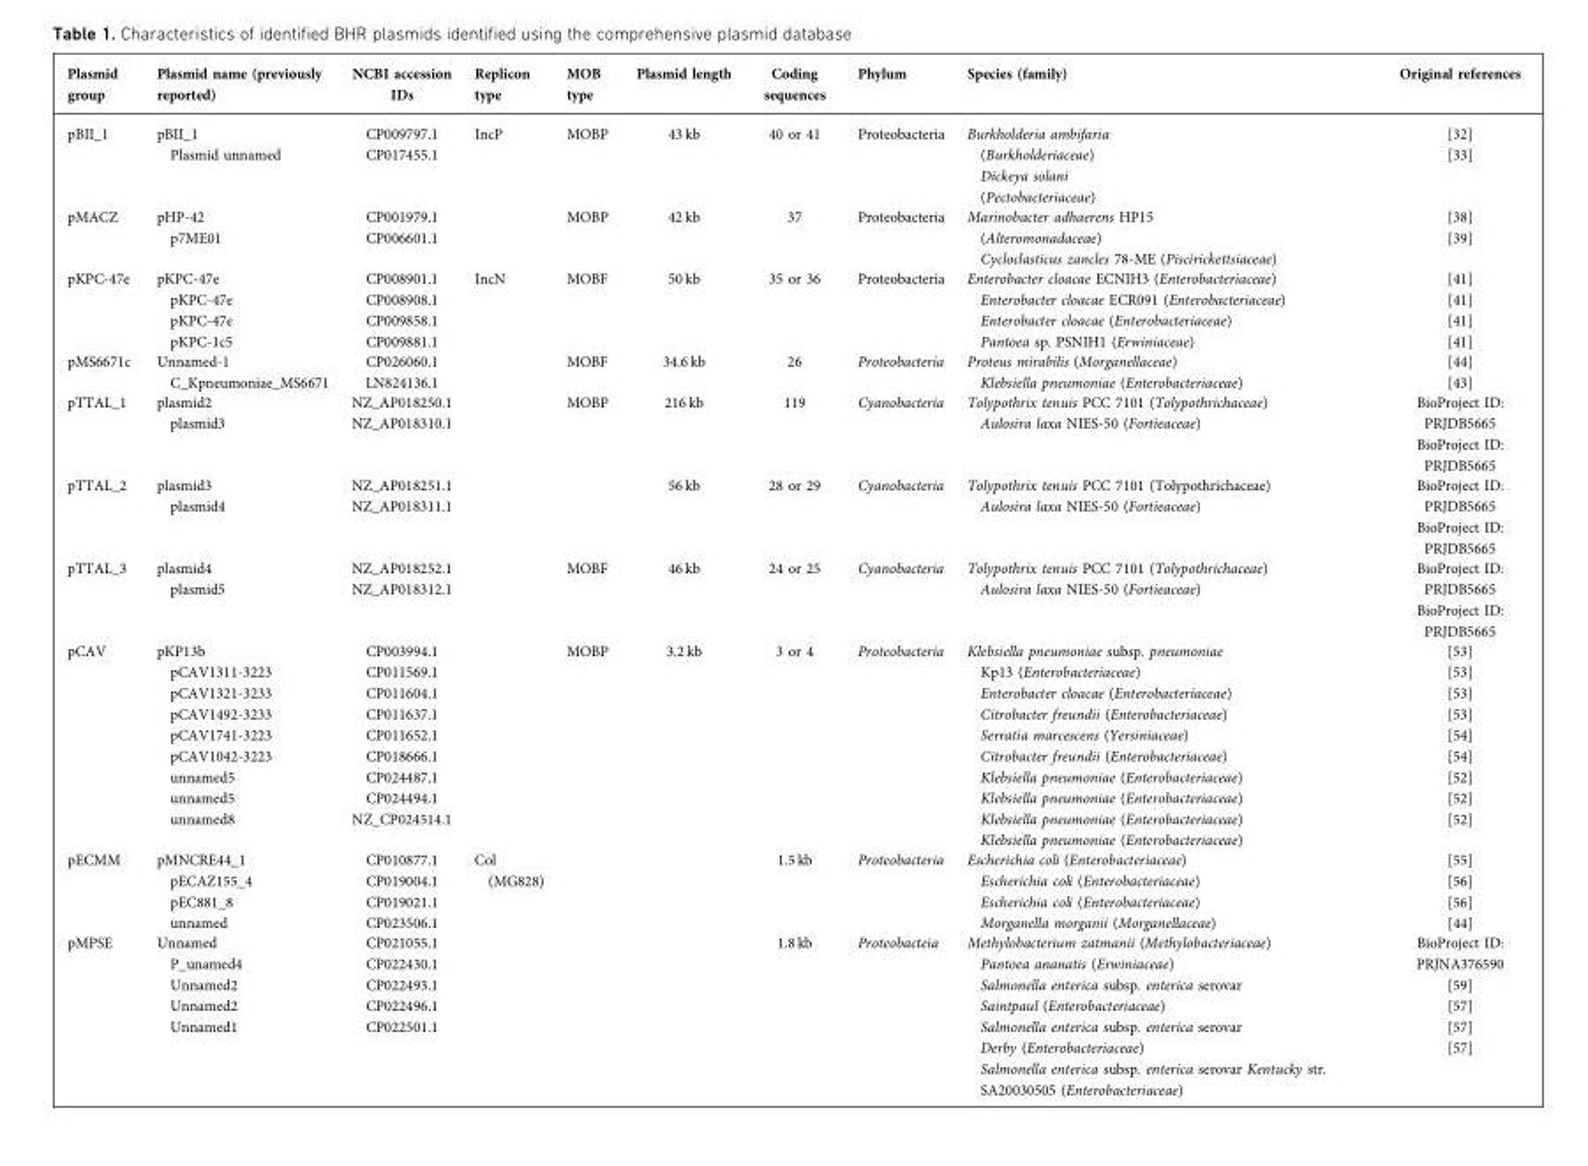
<table><thead><tr><td>Plasmid group</td><td>Plasmid name (previously reported)</td><td>NCBI accession IDs</td><td>Replicon type</td><td>MOB type</td><td>Plasmid length</td><td>Coding sequences</td><td>Phylum</td><td>Species (family)</td><td>Original references</td></tr></thead><tbody><tr><td>pBII_1</td><td>pBII_1 Plasmid unnamed</td><td>CP009797.1 CP017455.1</td><td>IncP</td><td>MOBP</td><td>43 kb</td><td>40 or 41</td><td>Proteobacteria</td><td>Burkholderia ambifaria (Burkholderiaceae) Dickeya solani (Pectobacteriaceae)</td><td>[32] [33]</td></tr><tr><td>pMACZ</td><td>pHP-42 p7ME01</td><td>CP001979.1 CP006601.1</td><td></td><td>MOBP</td><td>42 kb</td><td>37</td><td>Proteobacteria</td><td>Marinobacter adhaerens HP15 (Alteromonadaceae) Cycloclasticus zancles 78-ME (Piscirickettsiaceae)</td><td>[38] [39]</td></tr><tr><td>pKPC-47e</td><td>pKPC-47e pKPC-47e pKPC-47e pKPC-1c5</td><td>CP008901.1 CP008908.1 CP009858.1 CP009881.1</td><td>IncN</td><td>MOBF</td><td>50 kb</td><td>35 or 36</td><td>Proteobacteria</td><td>Enterobacter cloacae ECNIH3 (Enterobacteriaceae) Enterobacter cloacae ECR091 (Enterobacteriaceae) Enterobacter cloacae (Enterobacteriaceae) Pantoea sp. PSNIH1 (Erwiniaceae)</td><td>[41] [41] [41] [41]</td></tr><tr><td>pMS6671c</td><td>Unnamed-1 C_Kpneumoniae_MS6671</td><td>CP026060.1 LN824136.1</td><td></td><td>MOBF</td><td>34.6 kb</td><td>26</td><td>Proteobacteria</td><td>Proteus mirabilis (Morganellaceae) Klebsiella pneumoniae (Enterobacteriaceae)</td><td>[44] [43]</td></tr><tr><td>pTTAL_1</td><td>plasmid2 plasmid3</td><td>NZ_AP018250.1 NZ_AP018310.1</td><td></td><td>MOBP</td><td>216 kb</td><td>119</td><td>Cyanobacteria</td><td>Tolypothrix tenuis PCC 7101 (Tolypothrichaceae) Aulosira laxa NIES-50 (Fortieaceae)</td><td>BioProject ID: PRJDB5665 BioProject ID: PRJDB5665</td></tr><tr><td>pTTAL_2</td><td>plasmid3 plasmid4</td><td>NZ_AP018251.1 NZ_AP018311.1</td><td></td><td></td><td>56 kb</td><td>28 or 29</td><td>Cyanobacteria</td><td>Tolypothrix tenuis PCC 7101 (Tolypothrichaceae) Aulosira laxa NIES-50 (Fortieaceae)</td><td>BioProject ID: PRJDB5665 BioProject ID: PRJDB5665</td></tr><tr><td>pTTAL_3</td><td>plasmid4 plasmid5</td><td>NZ_AP018252.1 NZ_AP018312.1</td><td></td><td>MOBF</td><td>46 kb</td><td>24 or 25</td><td>Cyanobacteria</td><td>Tolypothrix tenuis PCC 7101 (Tolypothrichaceae) Aulosira laxa NIES-50 (Fortieaceae)</td><td>BioProject ID: PRJDB5665 BioProject ID: PRJDB5665</td></tr><tr><td>pCAV</td><td>pKP13b pCAV1311-3223 pCAV1321-3233 pCAV1492-3233 pCAV1741-3223 pCAV1042-3223 unnamed5 unnamed5 unnamed8</td><td>CP003994.1 CP011569.1 CP011604.1 CP011637.1 CP011652.1 CP018666.1 CP024487.1 CP024494.1 NZ_CP024514.1</td><td></td><td>MOBP</td><td>3.2 kb</td><td>3 or 4</td><td>Proteobacteria</td><td>Klebsiella pneumoniae subsp. pneumoniae Kp13 (Enterobacteriaceae) Enterobacter cloacae (Enterobacteriaceae) Citrobacter freundii (Enterobacteriaceae) Serratia marcescens (Yersiniaceae) Citrobacter freundii (Enterobacteriaceae) Klebsiella pneumoniae (Enterobacteriaceae) Klebsiella pneumoniae (Enterobacteriaceae) Klebsiella pneumoniae (Enterobacteriaceae) Klebsiella pneumoniae (Enterobacteriaceae)</td><td>[53] [53] [53] [53] [54] [54] [52] [52] [52]</td></tr><tr><td>pECMM</td><td>pMNCRE44_1 pECAZ155_4 pEC881_8 unnamed</td><td>CP010877.1 CP019004.1 CP019021.1 CP023506.1</td><td>Col (MG828)</td><td></td><td></td><td>1.5 kb</td><td>Proteobacteria</td><td>Escherichia coli (Enterobacteriaceae) Escherichia coli (Enterobacteriaceae) Escherichia coli (Enterobacteriaceae) Morganella morganii (Morganellaceae)</td><td>[55] [56] [56] [44]</td></tr><tr><td>pMPSE</td><td>Unnamed P_unamed4 Unnamed2 Unnamed2 Unnamed1</td><td>CP021055.1 CP022430.1 CP022493.1 CP022496.1 CP022501.1</td><td></td><td></td><td></td><td>1.8 kb</td><td>Proteobacteia</td><td>Methylobacterium zatmanii (Methylobacteriaceae) Pantoea ananatis (Erwiniaceae) Salmonella enterica subsp. enterica serovar Saintpaul (Enterobacteriaceae) Salmonella enterica subsp. enterica serovar Derby (Enterobacteriaceae) Salmonella enterica subsp. enterica serovar Kentucky str. SA20030505 (Enterobacteriaceae)</td><td>BioProject ID: PRJNA376590 [59] [57] [57] [57]</td></tr></tbody></table>